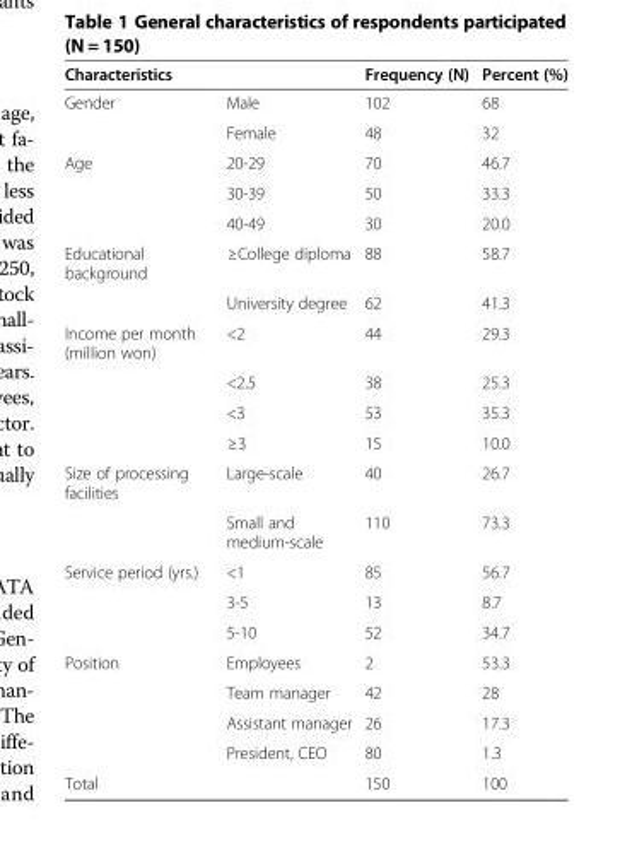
<table><thead><tr><td>Characteristics</td><td></td><td>Frequency (N)</td><td>Percent (%)</td></tr></thead><tbody><tr><td rowspan="2">Gender</td><td>Male</td><td>102</td><td>68</td></tr><tr><td>Female</td><td>48</td><td>32</td></tr><tr><td rowspan="3">Age</td><td>20-29</td><td>70</td><td>46.7</td></tr><tr><td>30-39</td><td>50</td><td>33.3</td></tr><tr><td>40-49</td><td>30</td><td>20.0</td></tr><tr><td rowspan="2">Educational background</td><td>≥College diploma</td><td>88</td><td>58.7</td></tr><tr><td>University degree</td><td>62</td><td>41.3</td></tr><tr><td rowspan="4">Income per month (million won)</td><td>&lt;2</td><td>44</td><td>29.3</td></tr><tr><td>&lt;2.5</td><td>38</td><td>25.3</td></tr><tr><td>&lt;3</td><td>53</td><td>35.3</td></tr><tr><td>≥3</td><td>15</td><td>10.0</td></tr><tr><td rowspan="2">Size of processing facilities</td><td>Large-scale</td><td>40</td><td>26.7</td></tr><tr><td>Small and medium-scale</td><td>110</td><td>73.3</td></tr><tr><td rowspan="3">Service period (yrs.)</td><td>&lt;1</td><td>85</td><td>56.7</td></tr><tr><td>3-5</td><td>13</td><td>8.7</td></tr><tr><td>5-10</td><td>52</td><td>34.7</td></tr><tr><td rowspan="4">Position</td><td>Employees</td><td>2</td><td>53.3</td></tr><tr><td>Team manager</td><td>42</td><td>28</td></tr><tr><td>Assistant manager</td><td>26</td><td>17.3</td></tr><tr><td>President, CEO</td><td>80</td><td>1.3</td></tr><tr><td>Total</td><td></td><td>150</td><td>100</td></tr></tbody></table>